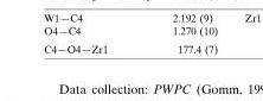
<table><tbody><tr><td>C4—O4—Zr1</td><td>177.4 (7)</td></tr></tbody></table>